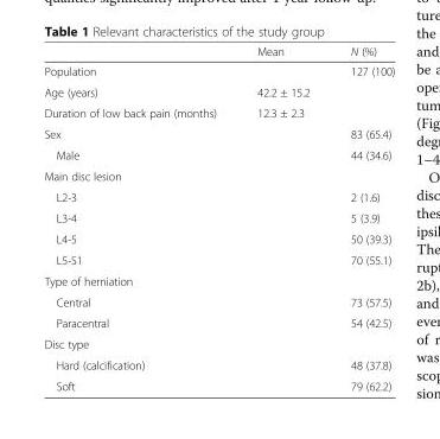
<table><thead><tr><td></td><td>Mean</td><td>N (%)</td></tr></thead><tbody><tr><td>Population</td><td></td><td>127 (100)</td></tr><tr><td>Age (years)</td><td>42.2 ± 15.2</td><td></td></tr><tr><td>Duration of low back pain (months)</td><td>12.3 ± 2.3</td><td></td></tr><tr><td>Sex</td><td></td><td>83 (65.4)</td></tr><tr><td>Male</td><td></td><td>44 (34.6)</td></tr><tr><td colspan="3">Main disc lesion</td></tr><tr><td>L2-3</td><td></td><td>2 (1.6)</td></tr><tr><td>L3-4</td><td></td><td>5 (3.9)</td></tr><tr><td>L4-5</td><td></td><td>50 (39.3)</td></tr><tr><td>L5-S1</td><td></td><td>70 (55.1)</td></tr><tr><td colspan="3">Type of herniation</td></tr><tr><td>Central</td><td></td><td>73 (57.5)</td></tr><tr><td>Paracentral</td><td></td><td>54 (42.5)</td></tr><tr><td colspan="3">Disc type</td></tr><tr><td>Hard (calcification)</td><td></td><td>48 (37.8)</td></tr><tr><td>Soft</td><td></td><td>79 (62.2)</td></tr></tbody></table>